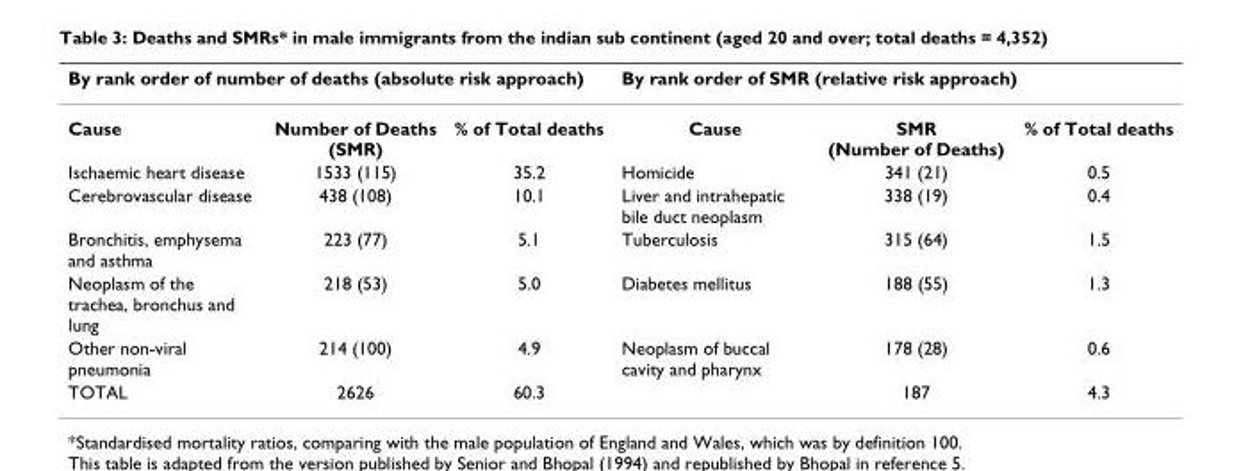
<table><thead><tr><td colspan="3">By rank order of number of deaths (absolute risk approach)</td><td colspan="3">By rank order of SMR (relative risk approach)</td></tr><tr><td>Cause</td><td>Number of Deaths (SMR)</td><td>% of Total deaths</td><td>Cause</td><td>SMR (Number of Deaths)</td><td>% of Total deaths</td></tr></thead><tbody><tr><td>Ischaemic heart disease</td><td>1533 (115)</td><td>35.2</td><td>Homicide</td><td>341 (21)</td><td>0.5</td></tr><tr><td>Cerebrovascular disease</td><td>438 (108)</td><td>10.1</td><td>Liver and intrahepatic bile duct neoplasm</td><td>338 (19)</td><td>0.4</td></tr><tr><td>Bronchitis, emphysema and asthma</td><td>223 (77)</td><td>5.1</td><td>Tuberculosis</td><td>315 (64)</td><td>1.5</td></tr><tr><td>Neoplasm of the trachea, bronchus and lung</td><td>218 (53)</td><td>5.0</td><td>Diabetes mellitus</td><td>188 (55)</td><td>1.3</td></tr><tr><td>Other non-viral pneumonia</td><td>214 (100)</td><td>4.9</td><td>Neoplasm of buccal cavity and pharynx</td><td>178 (28)</td><td>0.6</td></tr><tr><td>TOTAL</td><td>2626</td><td>60.3</td><td></td><td>187</td><td>4.3</td></tr></tbody></table>